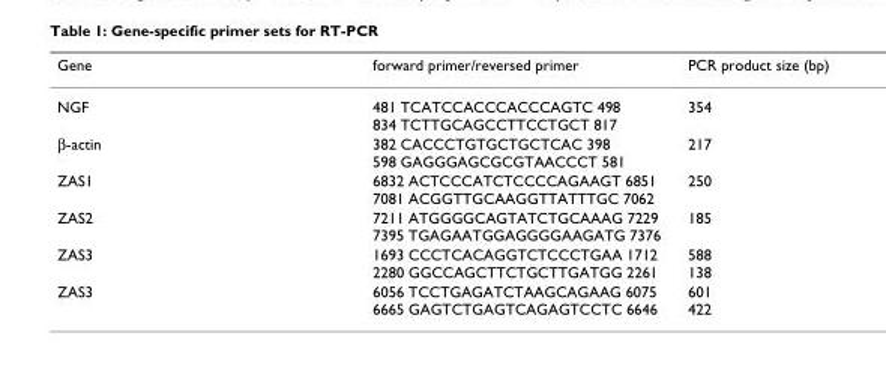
<table><thead><tr><td>Gene</td><td>forward primer/reversed primer</td><td>PCR product size (bp)</td></tr></thead><tbody><tr><td>NGF</td><td>481 TCATCCACCCACCCAGTC 498 834 TCTTGCAGCCTTCCTGCT 817</td><td>354</td></tr><tr><td>β-actin</td><td>382 CACCCTGTGCTGCTCAC 398 598 GAGGGAGCGCGTAACCCT 581</td><td>217</td></tr><tr><td>ZAS1</td><td>6832 ACTCCCATCTCCCCAGAAGT 6851 7081 ACGGTTGCAAGGTTATTTGC 7062</td><td>250</td></tr><tr><td>ZAS2</td><td>7211 ATGGGGCAGTATCTGCAAAG 7229 7395 TGAGAATGGAGGGGAAGATG 7376</td><td>185</td></tr><tr><td>ZAS3</td><td>1693 CCCTCACAGGTCTCCCTGAA 1712 2280 GGCCAGCTTCTGCTTGATGG 2261</td><td>588 138</td></tr><tr><td>ZAS3</td><td>6056 TCCTGAGATCTAAGCAGAAG 6075 6665 GAGTCTGAGTCAGAGTCCTC 6646</td><td>601 422</td></tr></tbody></table>